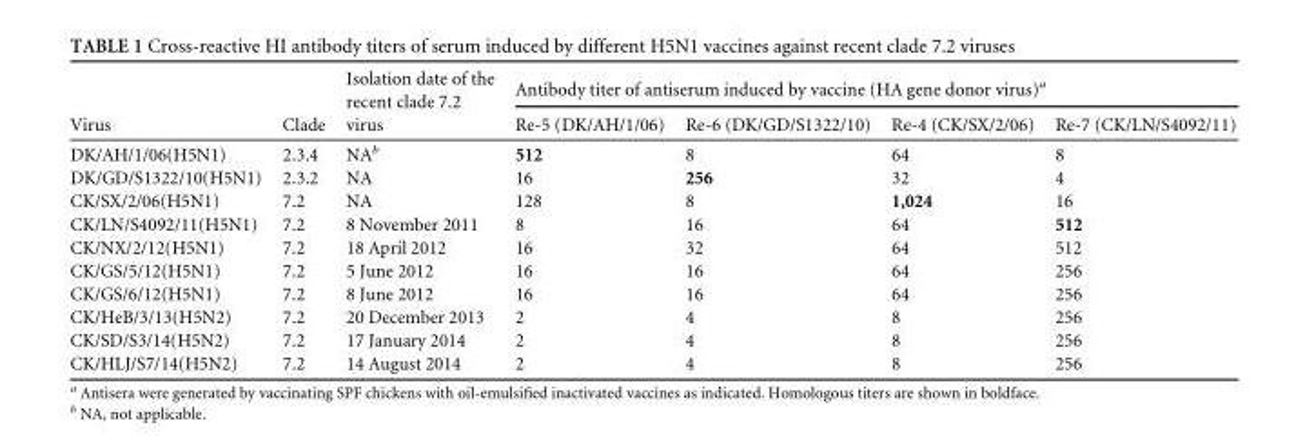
<table><thead><tr><td rowspan="2">Virus</td><td rowspan="2">Clade</td><td rowspan="2">Isolation date of the recent clade 7.2 virus</td><td colspan="4">Antibody titer of antiserum induced by vaccine (HA gene donor virus)<sup>a</sup></td></tr><tr><td>Re-5 (DK/AH/1/06)</td><td>Re-6 (DK/GD/S1322/10)</td><td>Re-4 (CK/SX/2/06)</td><td>Re-7 (CK/LN/S4092/11)</td></tr></thead><tbody><tr><td>DK/AH/1/06(H5N1)</td><td>2.3.4</td><td>NA<sup>b</sup></td><td>512</td><td>8</td><td>64</td><td>8</td></tr><tr><td>DK/GD/S1322/10(H5N1)</td><td>2.3.2</td><td>NA</td><td>16</td><td>256</td><td>32</td><td>4</td></tr><tr><td>CK/SX/2/06(H5N1)</td><td>7.2</td><td>NA</td><td>128</td><td>8</td><td>1,024</td><td>16</td></tr><tr><td>CK/LN/S4092/11(H5N1)</td><td>7.2</td><td>8 November 2011</td><td>8</td><td>16</td><td>64</td><td>512</td></tr><tr><td>CK/NX/2/12(H5N1)</td><td>7.2</td><td>18 April 2012</td><td>16</td><td>32</td><td>64</td><td>512</td></tr><tr><td>CK/GS/5/12(H5N1)</td><td>7.2</td><td>5 June 2012</td><td>16</td><td>16</td><td>64</td><td>256</td></tr><tr><td>CK/GS/6/12(H5N1)</td><td>7.2</td><td>8 June 2012</td><td>16</td><td>16</td><td>64</td><td>256</td></tr><tr><td>CK/HeB/3/13(H5N2)</td><td>7.2</td><td>20 December 2013</td><td>2</td><td>4</td><td>8</td><td>256</td></tr><tr><td>CK/SD/S3/14(H5N2)</td><td>7.2</td><td>17 January 2014</td><td>2</td><td>4</td><td>8</td><td>256</td></tr><tr><td>CK/HLJ/S7/14(H5N2)</td><td>7.2</td><td>14 August 2014</td><td>2</td><td>4</td><td>8</td><td>256</td></tr></tbody></table>